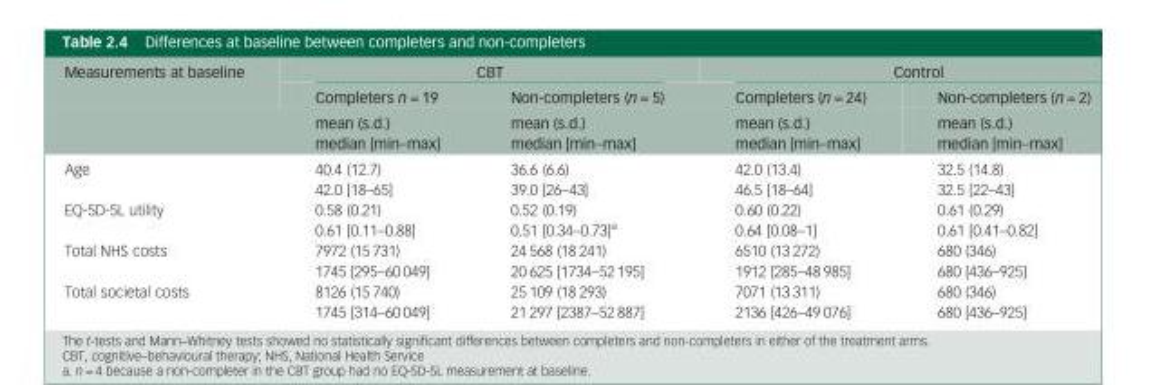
<table><thead><tr><td rowspan="3">Measurements at baseline</td><td colspan="2">CBT</td><td colspan="2">Control</td></tr><tr><td rowspan="2">Completers n = 19 mean (s.d.) median [min–max]</td><td rowspan="2">Non-completers (n = 5) mean (s.d.) median [min–max]</td><td rowspan="2">Completers (n = 24) mean (s.d.) median [min–max]</td><td rowspan="2">Non-completers (n = 2) mean (s.d.) median [min–max]</td></tr><tr></tr></thead><tbody><tr><td>Age</td><td>40.4 (12.7) 42.0 [18–65]</td><td>36.6 (6.6) 39.0 [26–43]</td><td>42.0 (13.4) 46.5 [18–64]</td><td>32.5 (14.8) 32.5 [22–43]</td></tr><tr><td>EQ-5D-5L utility</td><td>0.58 (0.21) 0.61 [0.11–0.88]</td><td>0.52 (0.19) 0.51 [0.34–0.73]<sup>a</sup></td><td>0.60 (0.22) 0.64 [0.08–1]</td><td>0.61 (0.29) 0.61 [0.41–0.82]</td></tr><tr><td>Total NHS costs</td><td>7972 (15 731) 1745 [295–60 049]</td><td>24 568 (18 241) 20 625 [1734–52 195]</td><td>6510 (13 272) 1912 [285–48 985]</td><td>680 (346) 680 [436–925]</td></tr><tr><td>Total societal costs</td><td>8126 (15 740) 1745 [314–60 049]</td><td>25 109 (18 293) 21 297 [2387–52 887]</td><td>7071 (13 311) 2136 [426–49 076]</td><td>680 (346) 680 [436–925]</td></tr></tbody></table>